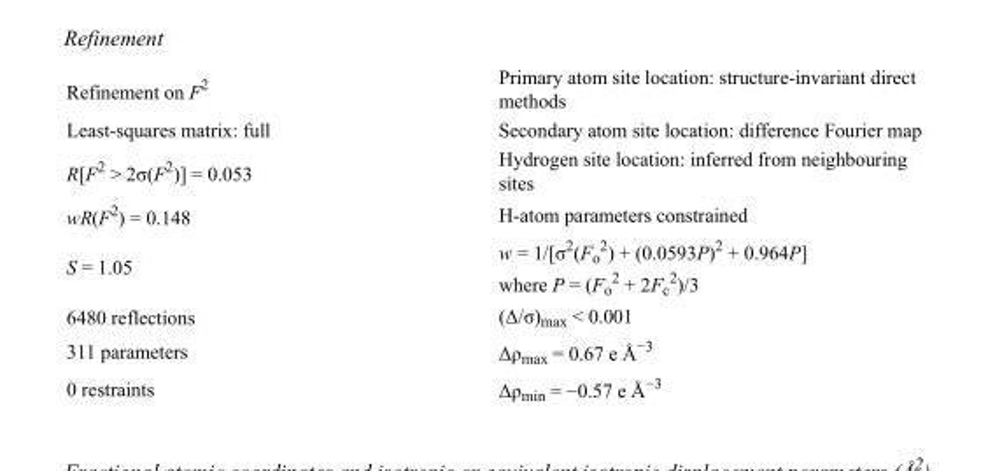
<table><tbody><tr><td>Refinement on F<sup>2</sup></td><td>Primary atom site location: structure-invariant direct methods</td></tr><tr><td>Least-squares matrix: full</td><td>Secondary atom site location: difference Fourier map</td></tr><tr><td>R[F<sup>2</sup> &gt; 2σ(F<sup>2</sup>)] = 0.053</td><td>Hydrogen site location: inferred from neighbouring sites</td></tr><tr><td>wR(F<sup>2</sup>) = 0.148</td><td>H-atom parameters constrained</td></tr><tr><td>S = 1.05</td><td>w = 1/[σ<sup>2</sup>(F<sub>o</sub> <sup>2</sup>) + (0.0593P)<sup>2</sup> + 0.964P] where P = (F<sub>o</sub> <sup>2</sup> + 2F<sub>c</sub> <sup>2</sup>)/3</td></tr><tr><td>6480 reflections</td><td>(Δ/σ)<sub>max</sub> &lt; 0.001</td></tr><tr><td>311 parameters</td><td>Δρ<sub>max</sub> = 0.67 e Å<sup>−3</sup></td></tr><tr><td>0 restraints</td><td>Δρ<sub>min</sub> = −0.57 e Å<sup>−3</sup></td></tr></tbody></table>